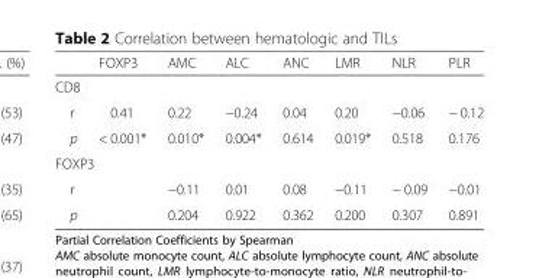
<table><thead><tr><td></td><td>FOXP3</td><td>AMC</td><td>ALC</td><td>ANC</td><td>LMR</td><td>NLR</td><td>PLR</td></tr></thead><tbody><tr><td colspan="8">CD8</td></tr><tr><td>r</td><td>0.41</td><td>0.22</td><td>−0.24</td><td>0.04</td><td>0.20</td><td>−0.06</td><td>− 0.12</td></tr><tr><td>p</td><td>&lt; 0.001*</td><td>0.010*</td><td>0.004*</td><td>0.614</td><td>0.019*</td><td>0.518</td><td>0.176</td></tr><tr><td colspan="8">FOXP3</td></tr><tr><td>r</td><td></td><td>−0.11</td><td>0.01</td><td>0.08</td><td>−0.11</td><td>− 0.09</td><td>−0.01</td></tr><tr><td>p</td><td></td><td>0.204</td><td>0.922</td><td>0.362</td><td>0.200</td><td>0.307</td><td>0.891</td></tr></tbody></table>